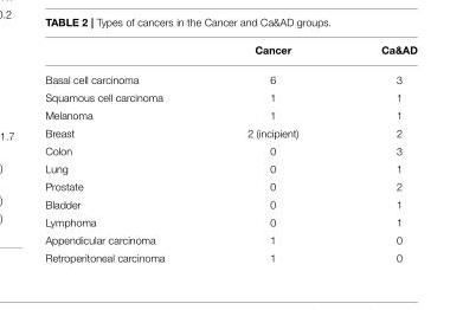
<table><thead><tr><td></td><td>Cancer</td><td>Ca&amp;AD</td></tr></thead><tbody><tr><td>Basal cell carcinoma</td><td>6</td><td>3</td></tr><tr><td>Squamous cell carcinoma</td><td>1</td><td>1</td></tr><tr><td>Melanoma</td><td>1</td><td>1</td></tr><tr><td>Breast</td><td>2 (incipient)</td><td>2</td></tr><tr><td>Colon</td><td>0</td><td>3</td></tr><tr><td>Lung</td><td>0</td><td>1</td></tr><tr><td>Prostate</td><td>0</td><td>2</td></tr><tr><td>Bladder</td><td>0</td><td>1</td></tr><tr><td>Lymphoma</td><td>0</td><td>1</td></tr><tr><td>Appendicular carcinoma</td><td>1</td><td>0</td></tr><tr><td>Retroperitoneal carcinoma</td><td>1</td><td>0</td></tr></tbody></table>